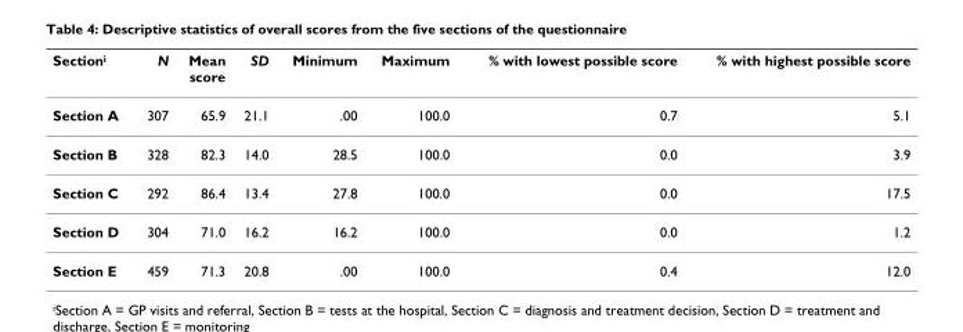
<table><thead><tr><td>Section<sup>i</sup></td><td>N</td><td>Mean score</td><td>SD</td><td>Minimum</td><td>Maximum</td><td>% with lowest possible score</td><td>% with highest possible score</td></tr></thead><tbody><tr><td>Section A</td><td>307</td><td>65.9</td><td>21.1</td><td>.00</td><td>100.0</td><td>0.7</td><td>5.1</td></tr><tr><td>Section B</td><td>328</td><td>82.3</td><td>14.0</td><td>28.5</td><td>100.0</td><td>0.0</td><td>3.9</td></tr><tr><td>Section C</td><td>292</td><td>86.4</td><td>13.4</td><td>27.8</td><td>100.0</td><td>0.0</td><td>17.5</td></tr><tr><td>Section D</td><td>304</td><td>71.0</td><td>16.2</td><td>16.2</td><td>100.0</td><td>0.0</td><td>1.2</td></tr><tr><td>Section E</td><td>459</td><td>71.3</td><td>20.8</td><td>.00</td><td>100.0</td><td>0.4</td><td>12.0</td></tr></tbody></table>